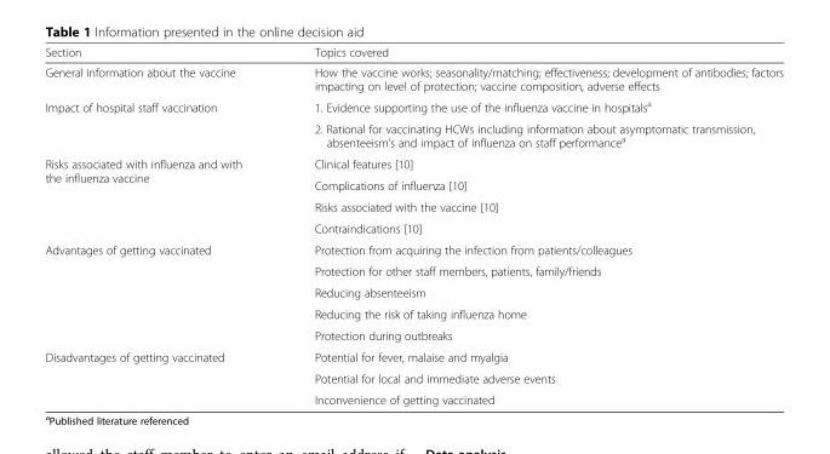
<table><thead><tr><td>Section</td><td>Topics covered</td></tr></thead><tbody><tr><td>General information about the vaccine</td><td>How the vaccine works; seasonality/matching; effectiveness; development of antibodies; factors impacting on level of protection; vaccine composition, adverse effects</td></tr><tr><td rowspan="2">Impact of hospital staff vaccination</td><td>1. Evidence supporting the use of the influenza vaccine in hospitals<sup>a</sup></td></tr><tr><td>2. Rational for vaccinating HCWs including information about asymptomatic transmission, absenteeism’s and impact of influenza on staff performance<sup>a</sup></td></tr><tr><td rowspan="4">Risks associated with influenza and with the influenza vaccine</td><td>Clinical features [10]</td></tr><tr><td>Complications of influenza [10]</td></tr><tr><td>Risks associated with the vaccine [10]</td></tr><tr><td>Contraindications [10]</td></tr><tr><td rowspan="5">Advantages of getting vaccinated</td><td>Protection from acquiring the infection from patients/colleagues</td></tr><tr><td>Protection for other staff members, patients, family/friends</td></tr><tr><td>Reducing absenteeism</td></tr><tr><td>Reducing the risk of taking influenza home</td></tr><tr><td>Protection during outbreaks</td></tr><tr><td rowspan="3">Disadvantages of getting vaccinated</td><td>Potential for fever, malaise and myalgia</td></tr><tr><td>Potential for local and immediate adverse events</td></tr><tr><td>Inconvenience of getting vaccinated</td></tr></tbody></table>